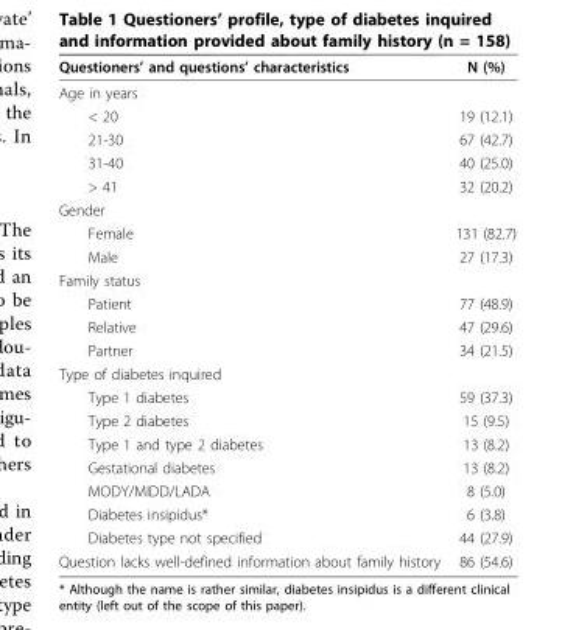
<table><thead><tr><td>Questioners’ and questions’ characteristics</td><td>N (%)</td></tr></thead><tbody><tr><td colspan="2">Age in years</td></tr><tr><td>&lt; 20</td><td>19 (12.1)</td></tr><tr><td>21-30</td><td>67 (42.7)</td></tr><tr><td>31-40</td><td>40 (25.0)</td></tr><tr><td>&gt; 41</td><td>32 (20.2)</td></tr><tr><td colspan="2">Gender</td></tr><tr><td>Female</td><td>131 (82.7)</td></tr><tr><td>Male</td><td>27 (17.3)</td></tr><tr><td colspan="2">Family status</td></tr><tr><td>Patient</td><td>77 (48.9)</td></tr><tr><td>Relative</td><td>47 (29.6)</td></tr><tr><td>Partner</td><td>34 (21.5)</td></tr><tr><td colspan="2">Type of diabetes inquired</td></tr><tr><td>Type 1 diabetes</td><td>59 (37.3)</td></tr><tr><td>Type 2 diabetes</td><td>15 (9.5)</td></tr><tr><td>Type 1 and type 2 diabetes</td><td>13 (8.2)</td></tr><tr><td>Gestational diabetes</td><td>13 (8.2)</td></tr><tr><td>MODY/MIDD/LADA</td><td>8 (5.0)</td></tr><tr><td>Diabetes insipidus*</td><td>6 (3.8)</td></tr><tr><td>Diabetes type not specified</td><td>44 (27.9)</td></tr><tr><td>Question lacks well-defined information about family history</td><td>86 (54.6)</td></tr></tbody></table>